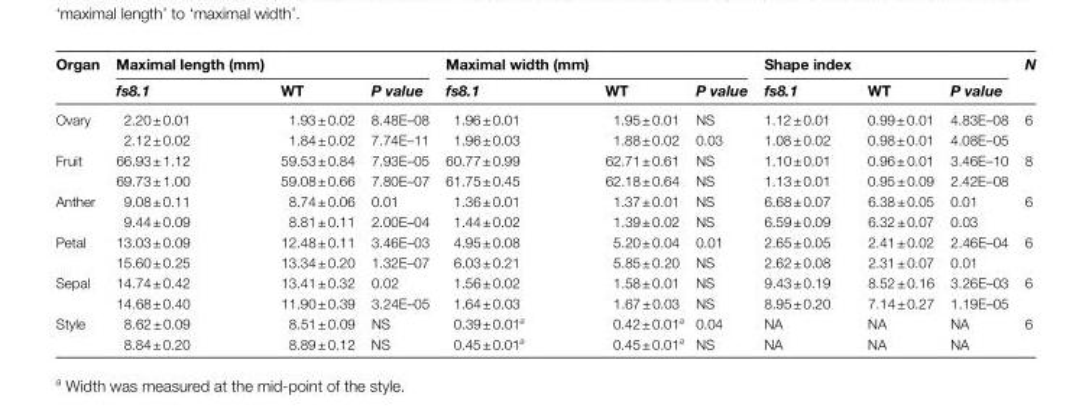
<table><thead><tr><td rowspan="2">Organ</td><td colspan="3">Maximal length (mm)</td><td colspan="3">Maximal width (mm)</td><td colspan="3">Shape index</td><td rowspan="2">N</td></tr><tr><td>fs8.1</td><td>WT</td><td>P value</td><td>fs8.1</td><td>WT</td><td>P value</td><td>fs8.1</td><td>WT</td><td>P value</td></tr></thead><tbody><tr><td rowspan="2">Ovary</td><td>2.20 ± 0.01</td><td>1.93 ± 0.02</td><td>8.48E–08</td><td>1.96 ± 0.01</td><td>1.95 ± 0.01</td><td>NS</td><td>1.12 ± 0.01</td><td>0.99 ± 0.01</td><td>4.83E–08</td><td>6</td></tr><tr><td>2.12 ± 0.02</td><td>1.84 ± 0.02</td><td>7.74E–11</td><td>1.96 ± 0.03</td><td>1.88 ± 0.02</td><td>0.03</td><td>1.08 ± 0.02</td><td>0.98 ± 0.01</td><td>4.08E–05</td><td></td></tr><tr><td rowspan="2">Fruit</td><td>66.93 ± 1.12</td><td>59.53 ± 0.84</td><td>7.93E–05</td><td>60.77 ± 0.99</td><td>62.71 ± 0.61</td><td>NS</td><td>1.10 ± 0.01</td><td>0.96 ± 0.01</td><td>3.46E–10</td><td>8</td></tr><tr><td>69.73 ± 1.00</td><td>59.08 ± 0.66</td><td>7.80E–07</td><td>61.75 ± 0.45</td><td>62.18 ± 0.64</td><td>NS</td><td>1.13 ± 0.01</td><td>0.95 ± 0.09</td><td>2.42E–08</td><td></td></tr><tr><td rowspan="2">Anther</td><td>9.08 ± 0.11</td><td>8.74 ± 0.06</td><td>0.01</td><td>1.36 ± 0.01</td><td>1.37 ± 0.01</td><td>NS</td><td>6.68 ± 0.07</td><td>6.38 ± 0.05</td><td>0.01</td><td>6</td></tr><tr><td>9.44 ± 0.09</td><td>8.81 ± 0.11</td><td>2.00E–04</td><td>1.44 ± 0.02</td><td>1.39 ± 0.02</td><td>NS</td><td>6.59 ± 0.09</td><td>6.32 ± 0.07</td><td>0.03</td><td></td></tr><tr><td rowspan="2">Petal</td><td>13.03 ± 0.09</td><td>12.48 ± 0.11</td><td>3.46E–03</td><td>4.95 ± 0.08</td><td>5.20 ± 0.04</td><td>0.01</td><td>2.65 ± 0.05</td><td>2.41 ± 0.02</td><td>2.46E–04</td><td>6</td></tr><tr><td>15.60 ± 0.25</td><td>13.34 ± 0.20</td><td>1.32E–07</td><td>6.03 ± 0.21</td><td>5.85 ± 0.20</td><td>NS</td><td>2.62 ± 0.08</td><td>2.31 ± 0.07</td><td>0.01</td><td></td></tr><tr><td rowspan="2">Sepal</td><td>14.74 ± 0.42</td><td>13.41 ± 0.32</td><td>0.02</td><td>1.56 ± 0.02</td><td>1.58 ± 0.01</td><td>NS</td><td>9.43 ± 0.19</td><td>8.52 ± 0.16</td><td>3.26E–03</td><td>6</td></tr><tr><td>14.68 ± 0.40</td><td>11.90 ± 0.39</td><td>3.24E–05</td><td>1.64 ± 0.03</td><td>1.67 ± 0.03</td><td>NS</td><td>8.95 ± 0.20</td><td>7.14 ± 0.27</td><td>1.19E–05</td><td></td></tr><tr><td rowspan="2">Style</td><td>8.62 ± 0.09</td><td>8.51 ± 0.09</td><td>NS</td><td>0.39 ± 0.01<sup>a</sup></td><td>0.42 ± 0.01<sup>a</sup></td><td>0.04</td><td>NA</td><td>NA</td><td>NA</td><td>6</td></tr><tr><td>8.84 ± 0.20</td><td>8.89 ± 0.12</td><td>NS</td><td>0.45 ± 0.01<sup>a</sup></td><td>0.45 ± 0.01<sup>a</sup></td><td>NS</td><td>NA</td><td>NA</td><td>NA</td><td></td></tr></tbody></table>